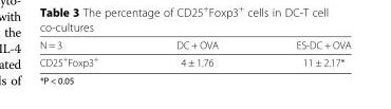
<table><thead><tr><td>N = 3</td><td>DC + OVA</td><td>ES-DC + OVA</td></tr></thead><tbody><tr><td>CD25<sup>+</sup>Foxp3<sup>+</sup></td><td>4 ± 1.76</td><td>11 ± 2.17*</td></tr></tbody></table>